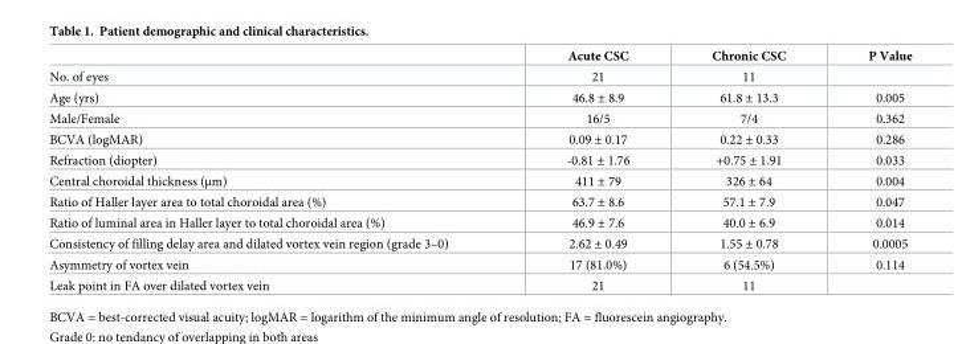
<table><thead><tr><td></td><td>Acute CSC</td><td>Chronic CSC</td><td>P Value</td></tr></thead><tbody><tr><td>No. of eyes</td><td>21</td><td>11</td><td></td></tr><tr><td>Age (yrs)</td><td>46.8 ± 8.9</td><td>61.8 ± 13.3</td><td>0.005</td></tr><tr><td>Male/Female</td><td>16/5</td><td>7/4</td><td>0.362</td></tr><tr><td>BCVA (logMAR)</td><td>0.09 ± 0.17</td><td>0.22 ± 0.33</td><td>0.286</td></tr><tr><td>Refraction (diopter)</td><td>-0.81 ± 1.76</td><td>+0.75 ± 1.91</td><td>0.033</td></tr><tr><td>Central choroidal thickness (μm)</td><td>411 ± 79</td><td>326 ± 64</td><td>0.004</td></tr><tr><td>Ratio of Haller layer area to total choroidal area (%)</td><td>63.7 ± 8.6</td><td>57.1 ± 7.9</td><td>0.047</td></tr><tr><td>Ratio of luminal area in Haller layer to total choroidal area (%)</td><td>46.9 ± 7.6</td><td>40.0 ± 6.9</td><td>0.014</td></tr><tr><td>Consistency of filling delay area and dilated vortex vein region (grade 3–0)</td><td>2.62 ± 0.49</td><td>1.55 ± 0.78</td><td>0.0005</td></tr><tr><td>Asymmetry of vortex vein</td><td>17 (81.0%)</td><td>6 (54.5%)</td><td>0.114</td></tr><tr><td>Leak point in FA over dilated vortex vein</td><td>21</td><td>11</td><td></td></tr></tbody></table>